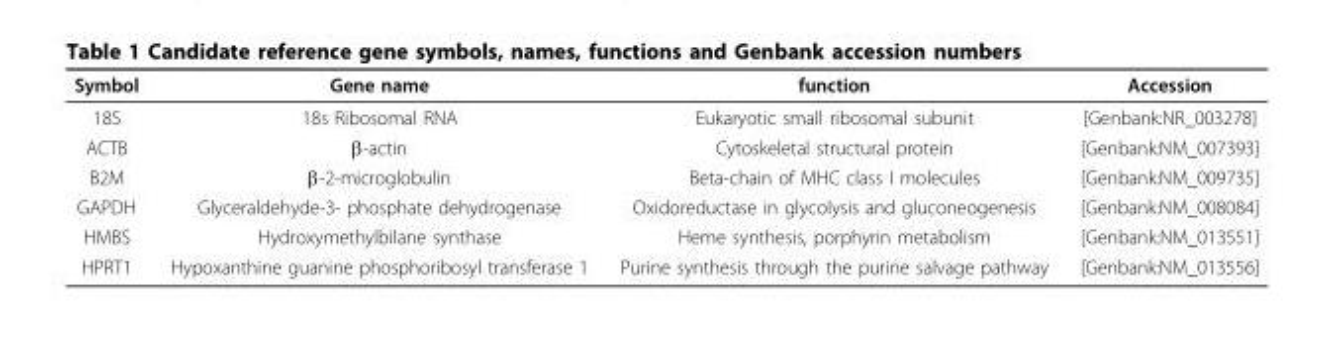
<table><thead><tr><td>Symbol</td><td>Gene name</td><td>function</td><td>Accession</td></tr></thead><tbody><tr><td>18S</td><td>18s Ribosomal RNA</td><td>Eukaryotic small ribosomal subunit</td><td>[Genbank:NR_003278]</td></tr><tr><td>ACTB</td><td>β-actin</td><td>Cytoskeletal structural protein</td><td>[Genbank:NM_007393]</td></tr><tr><td>B2M</td><td>β-2-microglobulin</td><td>Beta-chain of MHC class I molecules</td><td>[Genbank:NM_009735]</td></tr><tr><td>GAPDH</td><td>Glyceraldehyde-3- phosphate dehydrogenase</td><td>Oxidoreductase in glycolysis and gluconeogenesis</td><td>[Genbank:NM_008084]</td></tr><tr><td>HMBS</td><td>Hydroxymethylbilane synthase</td><td>Heme synthesis, porphyrin metabolism</td><td>[Genbank:NM_013551]</td></tr><tr><td>HPRT1</td><td>Hypoxanthine guanine phosphoribosyl transferase 1</td><td>Purine synthesis through the purine salvage pathway</td><td>[Genbank:NM_013556]</td></tr></tbody></table>